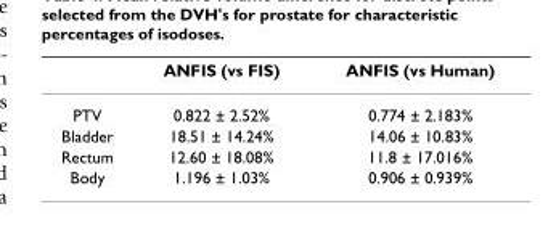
<table><thead><tr><td></td><td>ANFIS (vs FIS)</td><td>ANFIS (vs Human)</td></tr></thead><tbody><tr><td>PTV</td><td>0.822 ± 2.52%</td><td>0.774 ± 2.183%</td></tr><tr><td>Bladder</td><td>18.51 ± 14.24%</td><td>14.06 ± 10.83%</td></tr><tr><td>Rectum</td><td>12.60 ± 18.08%</td><td>11.8 ± 17.016%</td></tr><tr><td>Body</td><td>1.196 ± 1.03%</td><td>0.906 ± 0.939%</td></tr></tbody></table>